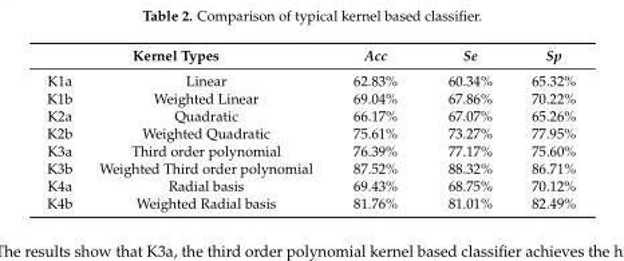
<table><thead><tr><td colspan="2">Kernel Types</td><td rowspan="2">Acc 62.83%</td><td rowspan="2">Se 60.34%</td><td rowspan="2">Sp 65.32%</td></tr><tr><td>K1a</td><td>Linear</td></tr></thead><tbody><tr><td>K1b</td><td>Weighted Linear</td><td>69.04%</td><td>67.86%</td><td>70.22%</td></tr><tr><td>K2a</td><td>Quadratic</td><td>66.17%</td><td>67.07%</td><td>65.26%</td></tr><tr><td>K2b</td><td>Weighted Quadratic</td><td>75.61%</td><td>73.27%</td><td>77.95%</td></tr><tr><td>K3a</td><td>Third order polynomial</td><td>76.39%</td><td>77.17%</td><td>75.60%</td></tr><tr><td>K3b</td><td>Weighted Third order polynomial</td><td>87.52%</td><td>88.32%</td><td>86.71%</td></tr><tr><td>K4a</td><td>Radial basis</td><td>69.43%</td><td>68.75%</td><td>70.12%</td></tr><tr><td>K4b</td><td>Weighted Radial basis</td><td>81.76%</td><td>81.01%</td><td>82.49%</td></tr></tbody></table>